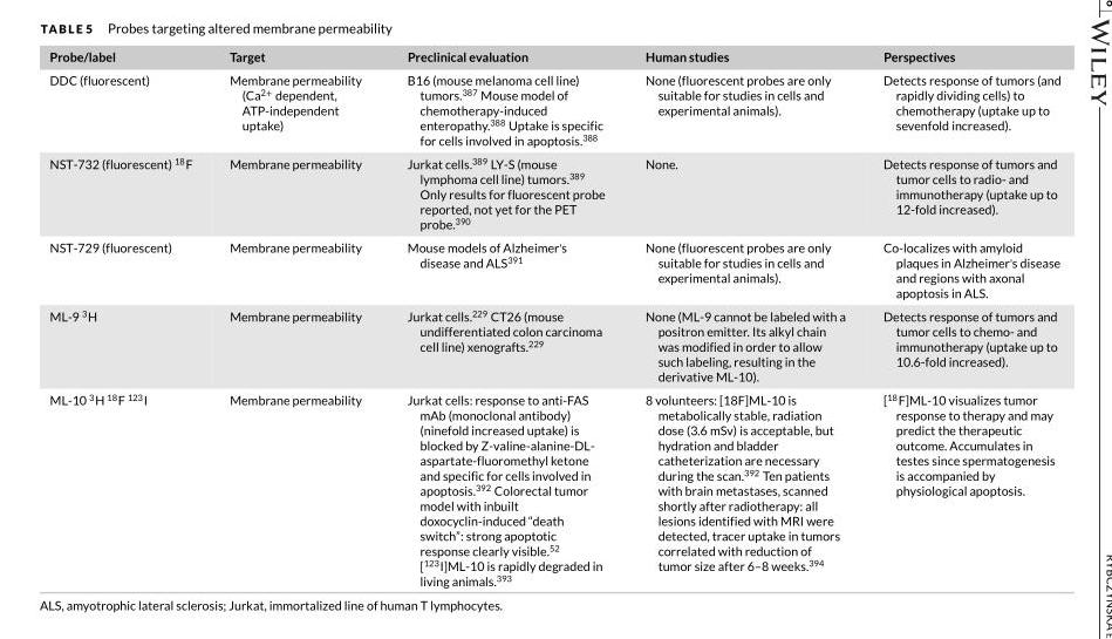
<table><thead><tr><td>Probe/label</td><td>Target</td><td>Preclinical evaluation</td><td>Human studies</td><td>Perspectives</td></tr></thead><tbody><tr><td>DDC (fluorescent)</td><td>Membrane permeability (Ca<sup>2+</sup> dependent, ATP-independent uptake)</td><td>B16 (mouse melanoma cell line) tumors.<sup>387</sup> Mouse model of chemotherapy-induced enteropathy.<sup>388</sup> Uptake is specific for cells involved in apoptosis.<sup>388</sup></td><td>None (fluorescent probes are only suitable for studies in cells and experimental animals).</td><td>Detects response of tumors (and rapidly dividing cells) to chemotherapy (uptake up to sevenfold increased).</td></tr><tr><td>NST-732 (fluorescent) <sup>18</sup>F</td><td>Membrane permeability</td><td>Jurkat cells.<sup>389</sup> LY-S (mouse lymphoma cell line) tumors.<sup>389</sup> Only results for fluorescent probe reported, not yet for the PET probe.<sup>390</sup></td><td>None.</td><td>Detects response of tumors and tumor cells to radio- and immunotherapy (uptake up to 12-fold increased).</td></tr><tr><td>NST-729 (fluorescent)</td><td>Membrane permeability</td><td>Mouse models of Alzheimer&#x27;s disease and ALS<sup>391</sup></td><td>None (fluorescent probes are only suitable for studies in cells and experimental animals).</td><td>Co-localizes with amyloid plaques in Alzheimer&#x27;s disease and regions with axonal apoptosis in ALS.</td></tr><tr><td>ML-9 <sup>3</sup>H</td><td>Membrane permeability</td><td>Jurkat cells.<sup>229</sup> CT26 (mouse undifferentiated colon carcinoma cell line) xenografts.<sup>229</sup></td><td>None (ML-9 cannot be labeled with a positron emitter. Its alkyl chain was modified in order to allow such labeling, resulting in the derivative ML-10).</td><td>Detects response of tumors and tumor cells to chemo- and immunotherapy (uptake up to 10.6-fold increased).</td></tr><tr><td>ML-10 <sup>3</sup>H <sup>18</sup>F <sup>123</sup>I</td><td>Membrane permeability</td><td>Jurkat cells: response to anti-FAS mAb (monoclonal antibody) (ninefold increased uptake) is blocked by Z-valine-alanine-DL- aspartate-fluoromethyl ketone and specific for cells involved in apoptosis.<sup>392</sup> Colorectal tumor model with inbuilt doxocyclin-induced “death switch”: strong apoptotic response clearly visible.<sup>52</sup> [<sup>123</sup>I]ML-10 is rapidly degraded in living animals.<sup>393</sup></td><td>8 volunteers: [18F]ML-10 is metabolically stable, radiation dose (3.6 mSv) is acceptable, but hydration and bladder catheterization are necessary during the scan.<sup>392</sup> Ten patients with brain metastases, scanned shortly after radiotherapy: all lesions identified with MRI were detected, tracer uptake in tumors correlated with reduction of tumor size after 6–8 weeks.<sup>394</sup></td><td>[<sup>18</sup>F]ML-10 visualizes tumor response to therapy and may predict the therapeutic outcome. Accumulates in testes since spermatogenesis is accompanied by physiological apoptosis.</td></tr></tbody></table>